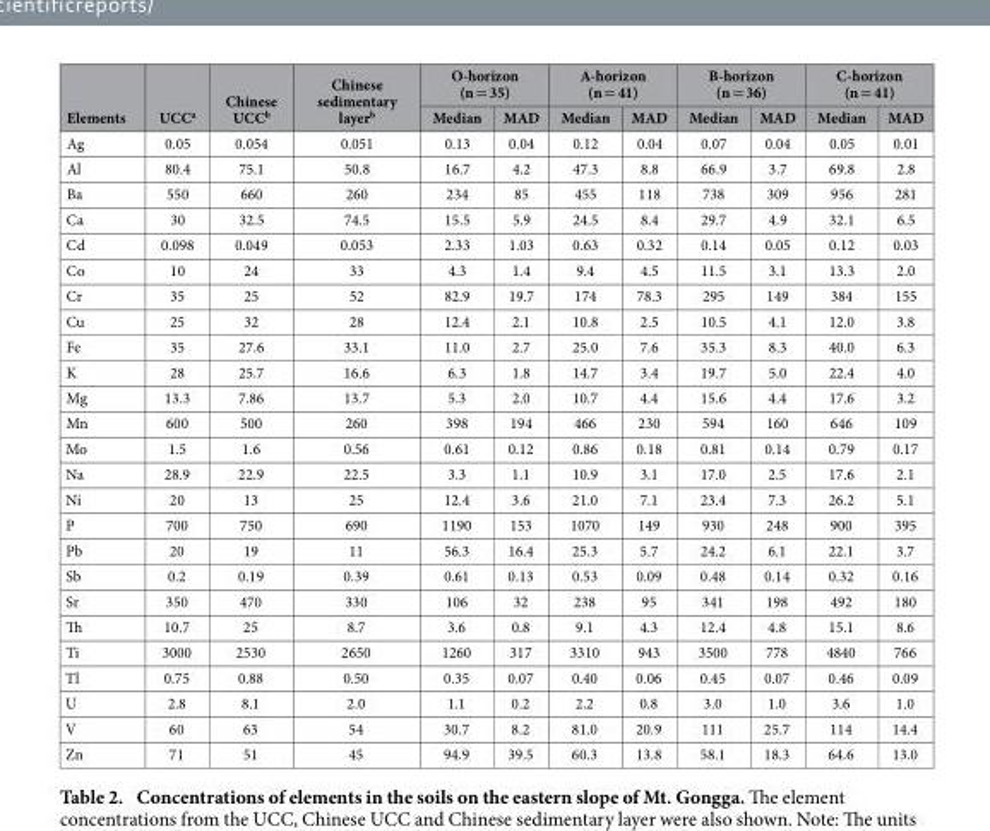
<table><thead><tr><td rowspan="2">Elements</td><td rowspan="2">UCC<sup>a</sup></td><td rowspan="2">Chinese UCC<sup>b</sup></td><td rowspan="2">Chinese sedimentary layer<sup>b</sup></td><td colspan="2">O-horizon (n = 35)</td><td colspan="2">A-horizon (n = 41)</td><td colspan="2">B-horizon (n = 36)</td><td colspan="2">C-horizon (n = 41)</td></tr><tr><td>Median</td><td>MAD</td><td>Median</td><td>MAD</td><td>Median</td><td>MAD</td><td>Median</td><td>MAD</td></tr></thead><tbody><tr><td>Ag</td><td>0.05</td><td>0.054</td><td>0.051</td><td>0.13</td><td>0.04</td><td>0.12</td><td>0.04</td><td>0.07</td><td>0.04</td><td>0.05</td><td>0.01</td></tr><tr><td>Al</td><td>80.4</td><td>75.1</td><td>50.8</td><td>16.7</td><td>4.2</td><td>47.3</td><td>8.8</td><td>66.9</td><td>3.7</td><td>69.8</td><td>2.8</td></tr><tr><td>Ba</td><td>550</td><td>660</td><td>260</td><td>234</td><td>85</td><td>455</td><td>118</td><td>738</td><td>309</td><td>956</td><td>281</td></tr><tr><td>Ca</td><td>30</td><td>32.5</td><td>74.5</td><td>15.5</td><td>5.9</td><td>24.5</td><td>8.4</td><td>29.7</td><td>4.9</td><td>32.1</td><td>6.5</td></tr><tr><td>Cd</td><td>0.098</td><td>0.049</td><td>0.053</td><td>2.33</td><td>1.03</td><td>0.63</td><td>0.32</td><td>0.14</td><td>0.05</td><td>0.12</td><td>0.03</td></tr><tr><td>Co</td><td>10</td><td>24</td><td>33</td><td>4.3</td><td>1.4</td><td>9.4</td><td>4.5</td><td>11.5</td><td>3.1</td><td>13.3</td><td>2.0</td></tr><tr><td>Cr</td><td>35</td><td>25</td><td>52</td><td>82.9</td><td>19.7</td><td>174</td><td>78.3</td><td>295</td><td>149</td><td>384</td><td>155</td></tr><tr><td>Cu</td><td>25</td><td>32</td><td>28</td><td>12.4</td><td>2.1</td><td>10.8</td><td>2.5</td><td>10.5</td><td>4.1</td><td>12.0</td><td>3.8</td></tr><tr><td>Fe</td><td>35</td><td>27.6</td><td>33.1</td><td>11.0</td><td>2.7</td><td>25.0</td><td>7.6</td><td>35.3</td><td>8.3</td><td>40.0</td><td>6.3</td></tr><tr><td>K</td><td>28</td><td>25.7</td><td>16.6</td><td>6.3</td><td>1.8</td><td>14.7</td><td>3.4</td><td>19.7</td><td>5.0</td><td>22.4</td><td>4.0</td></tr><tr><td>Mg</td><td>13.3</td><td>7.86</td><td>13.7</td><td>5.3</td><td>2.0</td><td>10.7</td><td>4.4</td><td>15.6</td><td>4.4</td><td>17.6</td><td>3.2</td></tr><tr><td>Mn</td><td>600</td><td>500</td><td>260</td><td>398</td><td>194</td><td>466</td><td>230</td><td>594</td><td>160</td><td>646</td><td>109</td></tr><tr><td>Mo</td><td>1.5</td><td>1.6</td><td>0.56</td><td>0.61</td><td>0.12</td><td>0.86</td><td>0.18</td><td>0.81</td><td>0.14</td><td>0.79</td><td>0.17</td></tr><tr><td>Na</td><td>28.9</td><td>22.9</td><td>22.5</td><td>3.3</td><td>1.1</td><td>10.9</td><td>3.1</td><td>17.0</td><td>2.5</td><td>17.6</td><td>2.1</td></tr><tr><td>Ni</td><td>20</td><td>13</td><td>25</td><td>12.4</td><td>3.6</td><td>21.0</td><td>7.1</td><td>23.4</td><td>7.3</td><td>26.2</td><td>5.1</td></tr><tr><td>P</td><td>700</td><td>750</td><td>690</td><td>1190</td><td>153</td><td>1070</td><td>149</td><td>930</td><td>248</td><td>900</td><td>395</td></tr><tr><td>Pb</td><td>20</td><td>19</td><td>11</td><td>56.3</td><td>16.4</td><td>25.3</td><td>5.7</td><td>24.2</td><td>6.1</td><td>22.1</td><td>3.7</td></tr><tr><td>Sb</td><td>0.2</td><td>0.19</td><td>0.39</td><td>0.61</td><td>0.13</td><td>0.53</td><td>0.09</td><td>0.48</td><td>0.14</td><td>0.32</td><td>0.16</td></tr><tr><td>Sr</td><td>350</td><td>470</td><td>330</td><td>106</td><td>32</td><td>238</td><td>95</td><td>341</td><td>198</td><td>492</td><td>180</td></tr><tr><td>Th</td><td>10.7</td><td>25</td><td>8.7</td><td>3.6</td><td>0.8</td><td>9.1</td><td>4.3</td><td>12.4</td><td>4.8</td><td>15.1</td><td>8.6</td></tr><tr><td>Ti</td><td>3000</td><td>2530</td><td>2650</td><td>1260</td><td>317</td><td>3310</td><td>943</td><td>3500</td><td>778</td><td>4840</td><td>766</td></tr><tr><td>Tl</td><td>0.75</td><td>0.88</td><td>0.50</td><td>0.35</td><td>0.07</td><td>0.40</td><td>0.06</td><td>0.45</td><td>0.07</td><td>0.46</td><td>0.09</td></tr><tr><td>U</td><td>2.8</td><td>8.1</td><td>2.0</td><td>1.1</td><td>0.2</td><td>2.2</td><td>0.8</td><td>3.0</td><td>1.0</td><td>3.6</td><td>1.0</td></tr><tr><td>V</td><td>60</td><td>63</td><td>54</td><td>30.7</td><td>8.2</td><td>81.0</td><td>20.9</td><td>111</td><td>25.7</td><td>114</td><td>14.4</td></tr><tr><td>Zn</td><td>71</td><td>51</td><td>45</td><td>94.9</td><td>39.5</td><td>60.3</td><td>13.8</td><td>58.1</td><td>18.3</td><td>64.6</td><td>13.0</td></tr></tbody></table>